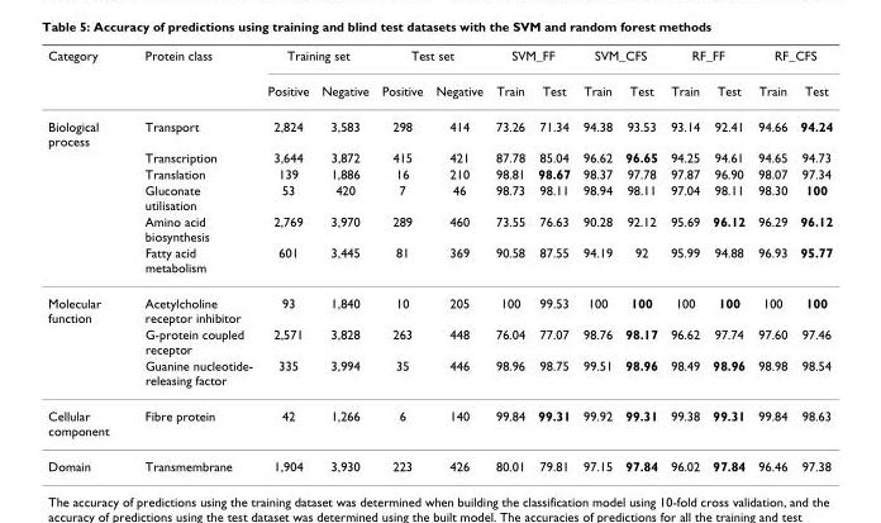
<table><thead><tr><td rowspan="2">Category</td><td rowspan="2">Protein class</td><td colspan="2">Training set</td><td colspan="2">Test set</td><td colspan="2">SVM_FF</td><td colspan="2">SVM_CFS</td><td colspan="2">RF_FF</td><td colspan="2">RF_CFS</td></tr><tr><td>Positive</td><td>Negative</td><td>Positive</td><td>Negative</td><td>Train</td><td>Test</td><td>Train</td><td>Test</td><td>Train</td><td>Test</td><td>Train</td><td>Test</td></tr></thead><tbody><tr><td rowspan="6">Biological process</td><td>Transport</td><td>2,824</td><td>3,583</td><td>298</td><td>414</td><td>73.26</td><td>71.34</td><td>94.38</td><td>93.53</td><td>93.14</td><td>92.41</td><td>94.66</td><td>94.24</td></tr><tr><td>Transcription</td><td>3,644</td><td>3,872</td><td>415</td><td>421</td><td>87.78</td><td>85.04</td><td>96.62</td><td>96.65</td><td>94.25</td><td>94.61</td><td>94.65</td><td>94.73</td></tr><tr><td>Translation</td><td>139</td><td>1,886</td><td>16</td><td>210</td><td>98.81</td><td>98.67</td><td>98.37</td><td>97.78</td><td>97.87</td><td>96.90</td><td>98.07</td><td>97.34</td></tr><tr><td>Gluconate utilisation</td><td>53</td><td>420</td><td>7</td><td>46</td><td>98.73</td><td>98.11</td><td>98.94</td><td>98.11</td><td>97.04</td><td>98.11</td><td>98.30</td><td>100</td></tr><tr><td>Amino acid biosynthesis</td><td>2,769</td><td>3,970</td><td>289</td><td>460</td><td>73.55</td><td>76.63</td><td>90.28</td><td>92.12</td><td>95.69</td><td>96.12</td><td>96.29</td><td>96.12</td></tr><tr><td>Fatty acid metabolism</td><td>601</td><td>3,445</td><td>81</td><td>369</td><td>90.58</td><td>87.55</td><td>94.19</td><td>92</td><td>95.99</td><td>94.88</td><td>96.93</td><td>95.77</td></tr><tr><td rowspan="3">Molecular function</td><td>Acetylcholine receptor inhibitor</td><td>93</td><td>1,840</td><td>10</td><td>205</td><td>100</td><td>99.53</td><td>100</td><td>100</td><td>100</td><td>100</td><td>100</td><td>100</td></tr><tr><td>G-protein coupled receptor</td><td>2,571</td><td>3,828</td><td>263</td><td>448</td><td>76.04</td><td>77.07</td><td>98.76</td><td>98.17</td><td>96.62</td><td>97.74</td><td>97.60</td><td>97.46</td></tr><tr><td>Guanine nucleotide- releasing factor</td><td>335</td><td>3,994</td><td>35</td><td>446</td><td>98.96</td><td>98.75</td><td>99.51</td><td>98.96</td><td>98.49</td><td>98.96</td><td>98.98</td><td>98.54</td></tr><tr><td>Cellular component</td><td>Fibre protein</td><td>42</td><td>1,266</td><td>6</td><td>140</td><td>99.84</td><td>99.31</td><td>99.92</td><td>99.31</td><td>99.38</td><td>99.31</td><td>99.84</td><td>98.63</td></tr><tr><td>Domain</td><td>Transmembrane</td><td>1,904</td><td>3,930</td><td>223</td><td>426</td><td>80.01</td><td>79.81</td><td>97.15</td><td>97.84</td><td>96.02</td><td>97.84</td><td>96.46</td><td>97.38</td></tr></tbody></table>